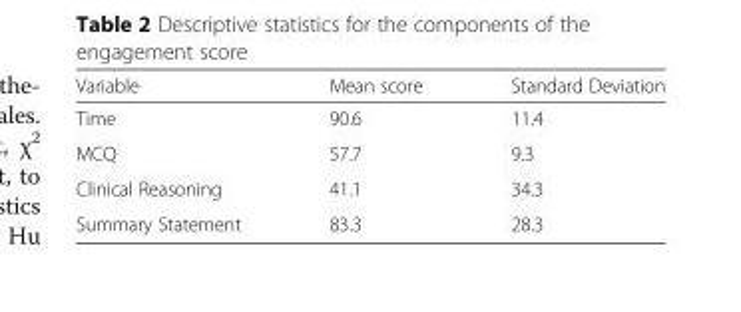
<table><thead><tr><td>Variable</td><td>Mean score</td><td>Standard Deviation</td></tr></thead><tbody><tr><td>Time</td><td>90.6</td><td>11.4</td></tr><tr><td>MCQ</td><td>57.7</td><td>9.3</td></tr><tr><td>Clinical Reasoning</td><td>41.1</td><td>34.3</td></tr><tr><td>Summary Statement</td><td>83.3</td><td>28.3</td></tr></tbody></table>